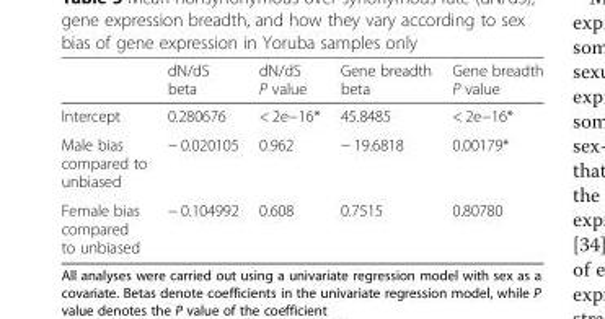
<table><thead><tr><td></td><td>dN/dS beta</td><td>dN/dS P value</td><td>Gene breadth beta</td><td>Gene breadth P value</td></tr></thead><tbody><tr><td>Intercept</td><td>0.280676</td><td>&lt; 2e−16*</td><td>45.8485</td><td>&lt; 2e−16*</td></tr><tr><td>Male bias compared to unbiased</td><td>− 0.020105</td><td>0.962</td><td>− 19.6818</td><td>0.00179*</td></tr><tr><td>Female bias compared to unbiased</td><td>− 0.104992</td><td>0.608</td><td>0.7515</td><td>0.80780</td></tr></tbody></table>